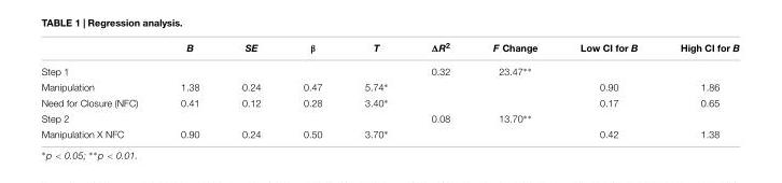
<table><thead><tr><td></td><td>B</td><td>SE</td><td>β</td><td>T</td><td>ΔR<sup>2</sup></td><td>F Change</td><td>Low CI for B</td><td>High CI for B</td></tr></thead><tbody><tr><td>Step 1</td><td></td><td></td><td></td><td></td><td>0.32</td><td>23.47∗∗</td><td></td><td></td></tr><tr><td>Manipulation</td><td>1.38</td><td>0.24</td><td>0.47</td><td>5.74∗</td><td></td><td></td><td>0.90</td><td>1.86</td></tr><tr><td>Need for Closure (NFC)</td><td>0.41</td><td>0.12</td><td>0.28</td><td>3.40∗</td><td></td><td></td><td>0.17</td><td>0.65</td></tr><tr><td>Step 2</td><td></td><td></td><td></td><td></td><td>0.08</td><td>13.70∗∗</td><td></td><td></td></tr><tr><td>Manipulation X NFC</td><td>0.90</td><td>0.24</td><td>0.50</td><td>3.70∗</td><td></td><td></td><td>0.42</td><td>1.38</td></tr></tbody></table>